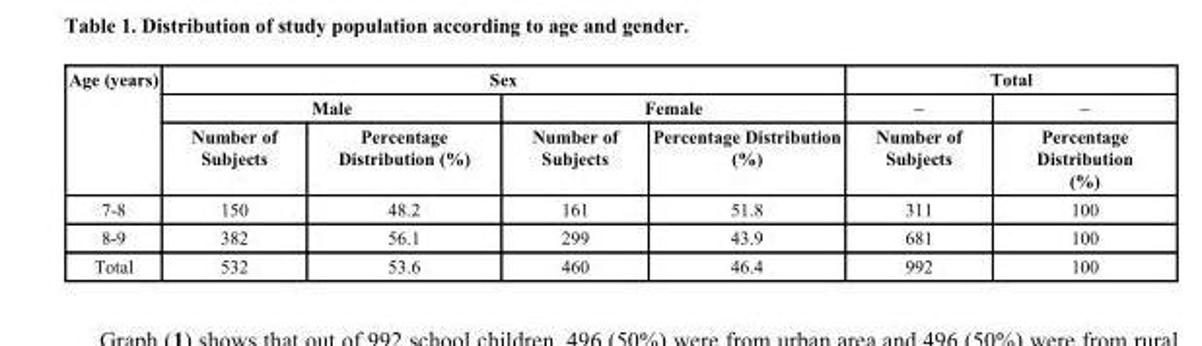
<table><thead><tr><td rowspan="3">Age (years)</td><td colspan="4">Sex</td><td colspan="2">Total</td></tr><tr><td colspan="2">Male</td><td colspan="2">Female</td><td rowspan="2">– Number of Subjects</td><td rowspan="2">– Percentage Distribution (%)</td></tr><tr><td>Number of Subjects</td><td>Percentage Distribution (%)</td><td>Number of Subjects</td><td>Percentage Distribution (%)</td></tr></thead><tbody><tr><td>7-8</td><td>150</td><td>48.2</td><td>161</td><td>51.8</td><td>311</td><td>100</td></tr><tr><td>8-9</td><td>382</td><td>56.1</td><td>299</td><td>43.9</td><td>681</td><td>100</td></tr><tr><td>Total</td><td>532</td><td>53.6</td><td>460</td><td>46.4</td><td>992</td><td>100</td></tr></tbody></table>